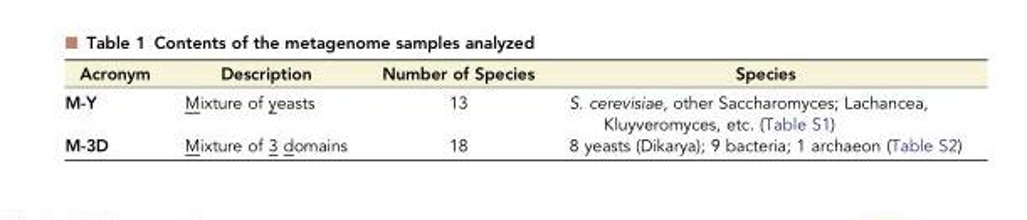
<table><thead><tr><td>Acronym</td><td>Description</td><td>Number of Species</td><td>Species</td></tr></thead><tbody><tr><td>M-Y</td><td>Mixture of yeasts</td><td>13</td><td>S. cerevisiae, other Saccharomyces; Lachancea, Kluyveromyces, etc. (Table S1)</td></tr><tr><td>M-3D</td><td>Mixture of 3 domains</td><td>18</td><td>8 yeasts (Dikarya); 9 bacteria; 1 archaeon (Table S2)</td></tr></tbody></table>